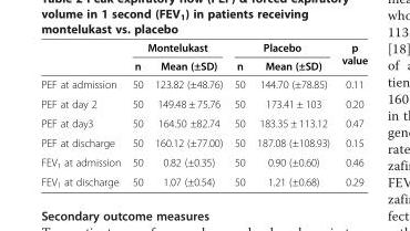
<table><thead><tr><td rowspan="2"></td><td colspan="2">Montelukast</td><td colspan="2">Placebo</td><td rowspan="2">p value</td></tr><tr><td>n</td><td>Mean (±SD)</td><td>n</td><td>Mean (±SD)</td></tr></thead><tbody><tr><td>PEF at admission</td><td>50</td><td>123.82 (±48.76)</td><td>50</td><td>144.70 (±78.85)</td><td>0.11</td></tr><tr><td>PEF at day 2</td><td>50</td><td>149.48 ± 75.76</td><td>50</td><td>173.41 ± 103</td><td>0.20</td></tr><tr><td>PEF at day3</td><td>50</td><td>164.50 ±82.74</td><td>50</td><td>183.35 ± 113.12</td><td>0.47</td></tr><tr><td>PEF at discharge</td><td>50</td><td>160.12 (±77.00)</td><td>50</td><td>187.08 (±108.93)</td><td>0.15</td></tr><tr><td>FEV<sub>1</sub> at admission</td><td>50</td><td>0.82 (±0.35)</td><td>50</td><td>0.90 (±0.60)</td><td>0.46</td></tr><tr><td>FEV<sub>1</sub> at discharge</td><td>50</td><td>1.07 (±0.54)</td><td>50</td><td>1.21 (±0.68)</td><td>0.29</td></tr></tbody></table>